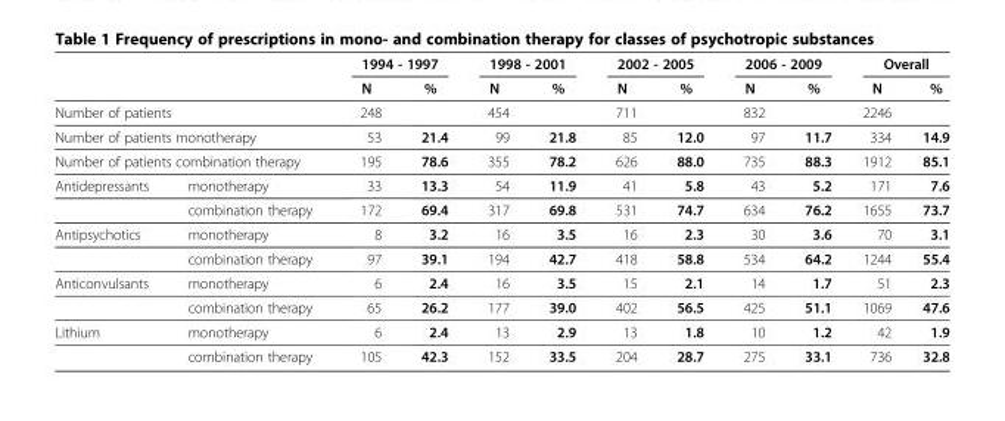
<table><thead><tr><td rowspan="2"></td><td rowspan="2"></td><td colspan="2">1994 - 1997</td><td colspan="2">1998 - 2001</td><td colspan="2">2002 - 2005</td><td colspan="2">2006 - 2009</td><td colspan="2">Overall</td></tr><tr><td>N</td><td>%</td><td>N</td><td>%</td><td>N</td><td>%</td><td>N</td><td>%</td><td>N</td><td>%</td></tr></thead><tbody><tr><td colspan="2">Number of patients</td><td>248</td><td></td><td>454</td><td></td><td>711</td><td></td><td>832</td><td></td><td>2246</td><td></td></tr><tr><td colspan="2">Number of patients monotherapy</td><td>53</td><td>21.4</td><td>99</td><td>21.8</td><td>85</td><td>12.0</td><td>97</td><td>11.7</td><td>334</td><td>14.9</td></tr><tr><td colspan="2">Number of patients combination therapy</td><td>195</td><td>78.6</td><td>355</td><td>78.2</td><td>626</td><td>88.0</td><td>735</td><td>88.3</td><td>1912</td><td>85.1</td></tr><tr><td rowspan="2">Antidepressants</td><td>monotherapy</td><td>33</td><td>13.3</td><td>54</td><td>11.9</td><td>41</td><td>5.8</td><td>43</td><td>5.2</td><td>171</td><td>7.6</td></tr><tr><td>combination therapy</td><td>172</td><td>69.4</td><td>317</td><td>69.8</td><td>531</td><td>74.7</td><td>634</td><td>76.2</td><td>1655</td><td>73.7</td></tr><tr><td rowspan="2">Antipsychotics</td><td>monotherapy</td><td>8</td><td>3.2</td><td>16</td><td>3.5</td><td>16</td><td>2.3</td><td>30</td><td>3.6</td><td>70</td><td>3.1</td></tr><tr><td>combination therapy</td><td>97</td><td>39.1</td><td>194</td><td>42.7</td><td>418</td><td>58.8</td><td>534</td><td>64.2</td><td>1244</td><td>55.4</td></tr><tr><td rowspan="2">Anticonvulsants</td><td>monotherapy</td><td>6</td><td>2.4</td><td>16</td><td>3.5</td><td>15</td><td>2.1</td><td>14</td><td>1.7</td><td>51</td><td>2.3</td></tr><tr><td>combination therapy</td><td>65</td><td>26.2</td><td>177</td><td>39.0</td><td>402</td><td>56.5</td><td>425</td><td>51.1</td><td>1069</td><td>47.6</td></tr><tr><td rowspan="2">Lithium</td><td>monotherapy</td><td>6</td><td>2.4</td><td>13</td><td>2.9</td><td>13</td><td>1.8</td><td>10</td><td>1.2</td><td>42</td><td>1.9</td></tr><tr><td>combination therapy</td><td>105</td><td>42.3</td><td>152</td><td>33.5</td><td>204</td><td>28.7</td><td>275</td><td>33.1</td><td>736</td><td>32.8</td></tr></tbody></table>